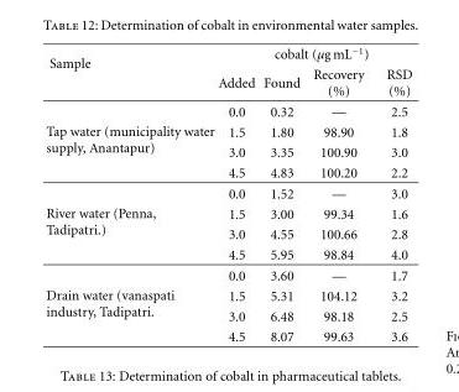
<table><thead><tr><td rowspan="2">Sample</td><td colspan="4">cobalt (μg mL<sup>−1</sup>)</td></tr><tr><td>Added</td><td>Found</td><td>Recovery (%)</td><td>RSD (%)</td></tr></thead><tbody><tr><td rowspan="4">Tap water (municipality water supply, Anantapur)</td><td>0.0</td><td>0.32</td><td>—</td><td>2.5</td></tr><tr><td>1.5</td><td>1.80</td><td>98.90</td><td>1.8</td></tr><tr><td>3.0</td><td>3.35</td><td>100.90</td><td>3.0</td></tr><tr><td>4.5</td><td>4.83</td><td>100.20</td><td>2.2</td></tr><tr><td rowspan="4">River water (Penna, Tadipatri.)</td><td>0.0</td><td>1.52</td><td>—</td><td>3.0</td></tr><tr><td>1.5</td><td>3.00</td><td>99.34</td><td>1.6</td></tr><tr><td>3.0</td><td>4.55</td><td>100.66</td><td>2.8</td></tr><tr><td>4.5</td><td>5.95</td><td>98.84</td><td>4.0</td></tr><tr><td rowspan="4">Drain water (vanaspati industry, Tadipatri.</td><td>0.0</td><td>3.60</td><td>—</td><td>1.7</td></tr><tr><td>1.5</td><td>5.31</td><td>104.12</td><td>3.2</td></tr><tr><td>3.0</td><td>6.48</td><td>98.18</td><td>2.5</td></tr><tr><td>4.5</td><td>8.07</td><td>99.63</td><td>3.6</td></tr></tbody></table>